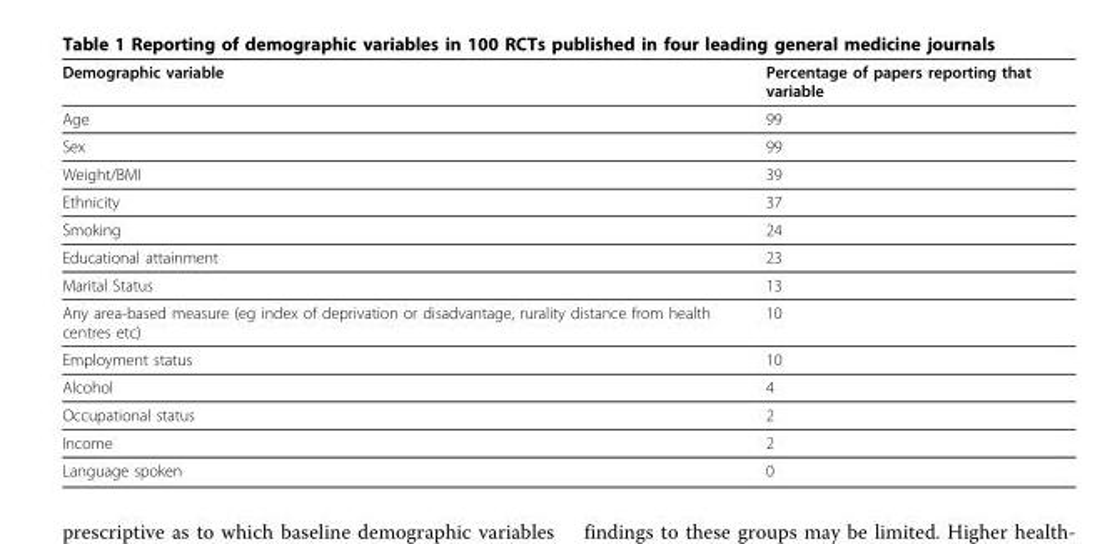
<table><thead><tr><td>Demographic variable</td><td>Percentage of papers reporting that variable</td></tr></thead><tbody><tr><td>Age</td><td>99</td></tr><tr><td>Sex</td><td>99</td></tr><tr><td>Weight/BMI</td><td>39</td></tr><tr><td>Ethnicity</td><td>37</td></tr><tr><td>Smoking</td><td>24</td></tr><tr><td>Educational attainment</td><td>23</td></tr><tr><td>Marital Status</td><td>13</td></tr><tr><td>Any area-based measure (eg index of deprivation or disadvantage, rurality distance from health centres etc)</td><td>10</td></tr><tr><td>Employment status</td><td>10</td></tr><tr><td>Alcohol</td><td>4</td></tr><tr><td>Occupational status</td><td>2</td></tr><tr><td>Income</td><td>2</td></tr><tr><td>Language spoken</td><td>0</td></tr></tbody></table>